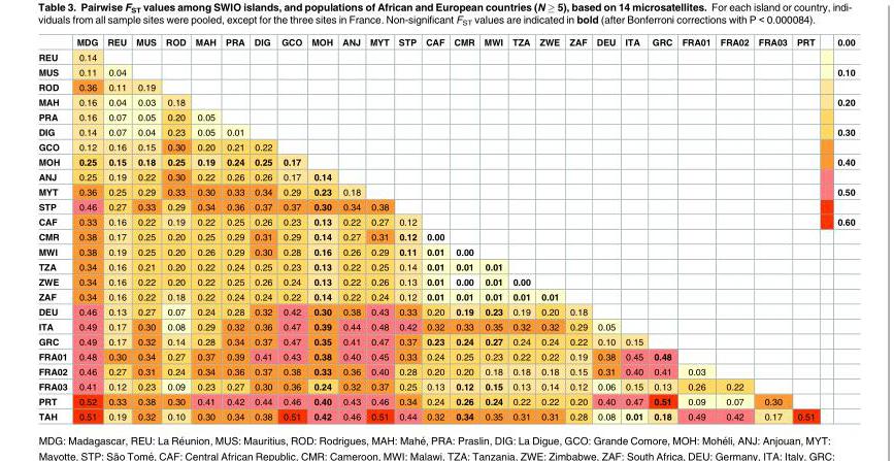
<table><thead><tr><td></td><td>MDG</td><td>REU</td><td>MUS</td><td>ROD</td><td>MAH</td><td>PRA</td><td>DIG</td><td>GCO</td><td>MOH</td><td>ANJ</td><td>MYT</td><td>STP</td><td>CAF</td><td>CMR</td><td>MWI</td><td>TZA</td><td>ZWE</td><td>ZAF</td><td>DEU</td><td>ITA</td><td>GRC</td><td>FRA01</td><td>FRA02</td><td>FRA03</td><td>PRT</td><td>0.00</td></tr></thead><tbody><tr><td>REU</td><td>0.14</td><td></td><td></td><td></td><td></td><td></td><td></td><td></td><td></td><td></td><td></td><td></td><td></td><td></td><td></td><td></td><td></td><td></td><td></td><td></td><td></td><td></td><td></td><td></td><td></td><td></td></tr><tr><td>MUS</td><td>0.11</td><td>0.04</td><td></td><td></td><td></td><td></td><td></td><td></td><td></td><td></td><td></td><td></td><td></td><td></td><td></td><td></td><td></td><td></td><td></td><td></td><td></td><td></td><td></td><td></td><td></td><td>0.10</td></tr><tr><td>ROD</td><td>0.36</td><td>0.11</td><td>0.19</td><td></td><td></td><td></td><td></td><td></td><td></td><td></td><td></td><td></td><td></td><td></td><td></td><td></td><td></td><td></td><td></td><td></td><td></td><td></td><td></td><td></td><td></td><td></td></tr><tr><td>MAH</td><td>0.16</td><td>0.04</td><td>0.03</td><td>0.18</td><td></td><td></td><td></td><td></td><td></td><td></td><td></td><td></td><td></td><td></td><td></td><td></td><td></td><td></td><td></td><td></td><td></td><td></td><td></td><td></td><td></td><td>0.20</td></tr><tr><td>PRA</td><td>0.16</td><td>0.07</td><td>0.05</td><td>0.20</td><td>0.05</td><td></td><td></td><td></td><td></td><td></td><td></td><td></td><td></td><td></td><td></td><td></td><td></td><td></td><td></td><td></td><td></td><td></td><td></td><td></td><td></td><td></td></tr><tr><td>DIG</td><td>0.14</td><td>0.07</td><td>0.04</td><td>0.23</td><td>0.05</td><td>0.01</td><td></td><td></td><td></td><td></td><td></td><td></td><td></td><td></td><td></td><td></td><td></td><td></td><td></td><td></td><td></td><td></td><td></td><td></td><td></td><td>0.30</td></tr><tr><td>GCO</td><td>0.12</td><td>0.16</td><td>0.15</td><td>0.30</td><td>0.20</td><td>0.21</td><td>0.22</td><td></td><td></td><td></td><td></td><td></td><td></td><td></td><td></td><td></td><td></td><td></td><td></td><td></td><td></td><td></td><td></td><td></td><td></td><td></td></tr><tr><td>MOH</td><td>0.25</td><td>0.15</td><td>0.18</td><td>0.25</td><td>0.19</td><td>0.24</td><td>0.25</td><td>0.17</td><td></td><td></td><td></td><td></td><td></td><td></td><td></td><td></td><td></td><td></td><td></td><td></td><td></td><td></td><td></td><td></td><td></td><td>0.40</td></tr><tr><td>ANJ</td><td>0.25</td><td>0.19</td><td>0.22</td><td>0.30</td><td>0.22</td><td>0.26</td><td>0.26</td><td>0.17</td><td>0.14</td><td></td><td></td><td></td><td></td><td></td><td></td><td></td><td></td><td></td><td></td><td></td><td></td><td></td><td></td><td></td><td></td><td></td></tr><tr><td>MYT</td><td>0.36</td><td>0.25</td><td>0.29</td><td>0.33</td><td>0.30</td><td>0.33</td><td>0.34</td><td>0.29</td><td>0.23</td><td>0.18</td><td></td><td></td><td></td><td></td><td></td><td></td><td></td><td></td><td></td><td></td><td></td><td></td><td></td><td></td><td></td><td>0.50</td></tr><tr><td>STP</td><td>0.46</td><td>0.27</td><td>0.33</td><td>0.29</td><td>0.34</td><td>0.36</td><td>0.37</td><td>0.37</td><td>0.30</td><td>0.34</td><td>0.38</td><td></td><td></td><td></td><td></td><td></td><td></td><td></td><td></td><td></td><td></td><td></td><td></td><td></td><td></td><td></td></tr><tr><td>CAF</td><td>0.33</td><td>0.16</td><td>0.22</td><td>0.19</td><td>0.22</td><td>0.25</td><td>0.26</td><td>0.23</td><td>0.13</td><td>0.22</td><td>0.27</td><td>0.12</td><td></td><td></td><td></td><td></td><td></td><td></td><td></td><td></td><td></td><td></td><td></td><td></td><td></td><td>0.60</td></tr><tr><td>CMR</td><td>0.38</td><td>0.17</td><td>0.25</td><td>0.20</td><td>0.25</td><td>0.29</td><td>0.31</td><td>0.29</td><td>0.14</td><td>0.27</td><td>0.31</td><td>0.12</td><td>0.00</td><td></td><td></td><td></td><td></td><td></td><td></td><td></td><td></td><td></td><td></td><td></td><td></td><td></td></tr><tr><td>MWI</td><td>0.38</td><td>0.19</td><td>0.25</td><td>0.20</td><td>0.26</td><td>0.29</td><td>0.30</td><td>0.28</td><td>0.16</td><td>0.26</td><td>0.29</td><td>0.11</td><td>0.01</td><td>0.00</td><td></td><td></td><td></td><td></td><td></td><td></td><td></td><td></td><td></td><td></td><td></td><td></td></tr><tr><td>TZA</td><td>0.34</td><td>0.16</td><td>0.21</td><td>0.20</td><td>0.22</td><td>0.24</td><td>0.25</td><td>0.23</td><td>0.13</td><td>0.22</td><td>0.25</td><td>0.14</td><td>0.01</td><td>0.01</td><td>0.01</td><td></td><td></td><td></td><td></td><td></td><td></td><td></td><td></td><td></td><td></td><td></td></tr><tr><td>ZWE</td><td>0.34</td><td>0.16</td><td>0.22</td><td>0.20</td><td>0.22</td><td>0.25</td><td>0.26</td><td>0.24</td><td>0.13</td><td>0.22</td><td>0.26</td><td>0.13</td><td>0.01</td><td>0.00</td><td>0.01</td><td>0.00</td><td></td><td></td><td></td><td></td><td></td><td></td><td></td><td></td><td></td><td></td></tr><tr><td>ZAF</td><td>0.34</td><td>0.16</td><td>0.22</td><td>0.18</td><td>0.22</td><td>0.24</td><td>0.24</td><td>0.22</td><td>0.14</td><td>0.22</td><td>0.24</td><td>0.12</td><td>0.01</td><td>0.01</td><td>0.01</td><td>0.01</td><td>0.01</td><td></td><td></td><td></td><td></td><td></td><td></td><td></td><td></td><td></td></tr><tr><td>DEU</td><td>0.46</td><td>0.13</td><td>0.27</td><td>0.07</td><td>0.24</td><td>0.28</td><td>0.32</td><td>0.42</td><td>0.30</td><td>0.38</td><td>0.43</td><td>0.33</td><td>0.20</td><td>0.19</td><td>0.23</td><td>0.19</td><td>0.20</td><td>0.18</td><td></td><td></td><td></td><td></td><td></td><td></td><td></td><td></td></tr><tr><td>ITA</td><td>0.49</td><td>0.17</td><td>0.30</td><td>0.08</td><td>0.29</td><td>0.32</td><td>0.36</td><td>0.47</td><td>0.39</td><td>0.44</td><td>0.48</td><td>0.42</td><td>0.32</td><td>0.33</td><td>0.35</td><td>0.32</td><td>0.32</td><td>0.29</td><td>0.05</td><td></td><td></td><td></td><td></td><td></td><td></td><td></td></tr><tr><td>GRC</td><td>0.49</td><td>0.17</td><td>0.32</td><td>0.14</td><td>0.28</td><td>0.34</td><td>0.37</td><td>0.47</td><td>0.35</td><td>0.41</td><td>0.47</td><td>0.37</td><td>0.23</td><td>0.24</td><td>0.27</td><td>0.24</td><td>0.24</td><td>0.22</td><td>0.10</td><td>0.15</td><td></td><td></td><td></td><td></td><td></td><td></td></tr><tr><td>FRA01</td><td>0.48</td><td>0.30</td><td>0.34</td><td>0.27</td><td>0.37</td><td>0.39</td><td>0.41</td><td>0.43</td><td>0.38</td><td>0.40</td><td>0.45</td><td>0.33</td><td>0.24</td><td>0.25</td><td>0.23</td><td>0.22</td><td>0.22</td><td>0.19</td><td>0.38</td><td>0.45</td><td>0.48</td><td></td><td></td><td></td><td></td><td></td></tr><tr><td>FRA02</td><td>0.46</td><td>0.27</td><td>0.31</td><td>0.24</td><td>0.34</td><td>0.36</td><td>0.37</td><td>0.38</td><td>0.33</td><td>0.36</td><td>0.40</td><td>0.28</td><td>0.20</td><td>0.20</td><td>0.18</td><td>0.18</td><td>0.18</td><td>0.15</td><td>0.31</td><td>0.40</td><td>0.41</td><td>0.03</td><td></td><td></td><td></td><td></td></tr><tr><td>FRA03</td><td>0.41</td><td>0.12</td><td>0.23</td><td>0.09</td><td>0.23</td><td>0.27</td><td>0.30</td><td>0.36</td><td>0.24</td><td>0.32</td><td>0.37</td><td>0.25</td><td>0.13</td><td>0.12</td><td>0.15</td><td>0.13</td><td>0.14</td><td>0.12</td><td>0.06</td><td>0.15</td><td>0.13</td><td>0.26</td><td>0.22</td><td></td><td></td><td></td></tr><tr><td>PRT</td><td>0.52</td><td>0.33</td><td>0.38</td><td>0.30</td><td>0.41</td><td>0.42</td><td>0.44</td><td>0.46</td><td>0.40</td><td>0.43</td><td>0.46</td><td>0.34</td><td>0.24</td><td>0.26</td><td>0.24</td><td>0.22</td><td>0.22</td><td>0.20</td><td>0.40</td><td>0.47</td><td>0.51</td><td>0.09</td><td>0.07</td><td>0.30</td><td></td><td></td></tr><tr><td>TAH</td><td>0.51</td><td>0.19</td><td>0.32</td><td>0.10</td><td>0.30</td><td>0.34</td><td>0.38</td><td>0.51</td><td>0.42</td><td>0.46</td><td>0.51</td><td>0.44</td><td>0.32</td><td>0.34</td><td>0.35</td><td>0.31</td><td>0.31</td><td>0.28</td><td>0.08</td><td>0.01</td><td>0.18</td><td>0.49</td><td>0.42</td><td>0.17</td><td>0.51</td><td></td></tr></tbody></table>